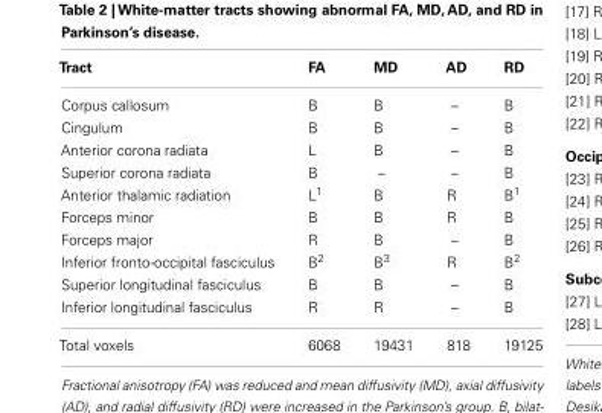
<table><thead><tr><td>Tract</td><td>FA</td><td>MD</td><td>AD</td><td>RD</td></tr></thead><tbody><tr><td>Corpus callosum</td><td>B</td><td>B</td><td>–</td><td>B</td></tr><tr><td>Cingulum</td><td>B</td><td>B</td><td>–</td><td>B</td></tr><tr><td>Anterior corona radiata</td><td>L</td><td>B</td><td>–</td><td>B</td></tr><tr><td>Superior corona radiata</td><td>B</td><td>–</td><td>–</td><td>B</td></tr><tr><td>Anterior thalamic radiation</td><td>L<sup>1</sup></td><td>B</td><td>R</td><td>B<sup>1</sup></td></tr><tr><td>Forceps minor</td><td>B</td><td>B</td><td>R</td><td>B</td></tr><tr><td>Forceps major</td><td>R</td><td>B</td><td>–</td><td>B</td></tr><tr><td>Inferior fronto-occipital fasciculus</td><td>B<sup>2</sup></td><td>B<sup>3</sup></td><td>R</td><td>B<sup>2</sup></td></tr><tr><td>Superior longitudinal fasciculus</td><td>B</td><td>B</td><td>–</td><td>B</td></tr><tr><td>Inferior longitudinal fasciculus</td><td>R</td><td>R</td><td>–</td><td>B</td></tr><tr><td>Total voxels</td><td>6068</td><td>19431</td><td>818</td><td>19125</td></tr></tbody></table>